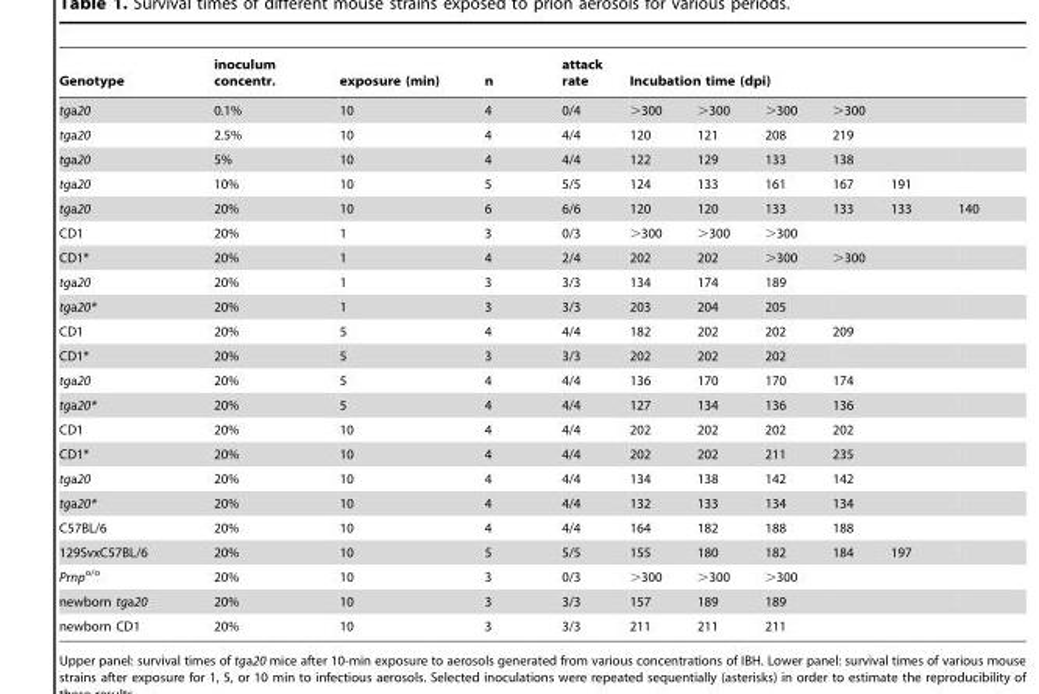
<table><thead><tr><td rowspan="2">Genotype tga20</td><td rowspan="2">inoculum concentr. 0.1%</td><td rowspan="2">exposure (min) 10</td><td rowspan="2">n 4</td><td rowspan="2">attack rate 0/4</td><td colspan="6">Incubation time (dpi)</td></tr><tr><td>&gt;300</td><td>&gt;300</td><td>&gt;300</td><td>&gt;300</td><td></td><td></td></tr></thead><tbody><tr><td>tga20</td><td>2.5%</td><td>10</td><td>4</td><td>4/4</td><td>120</td><td>121</td><td>208</td><td>219</td><td></td><td></td></tr><tr><td>tga20</td><td>5%</td><td>10</td><td>4</td><td>4/4</td><td>122</td><td>129</td><td>133</td><td>138</td><td></td><td></td></tr><tr><td>tga20</td><td>10%</td><td>10</td><td>5</td><td>5/5</td><td>124</td><td>133</td><td>161</td><td>167</td><td>191</td><td></td></tr><tr><td>tga20</td><td>20%</td><td>10</td><td>6</td><td>6/6</td><td>120</td><td>120</td><td>133</td><td>133</td><td>133</td><td>140</td></tr><tr><td>CD1</td><td>20%</td><td>1</td><td>3</td><td>0/3</td><td>&gt;300</td><td>&gt;300</td><td>&gt;300</td><td></td><td></td><td></td></tr><tr><td>CD1*</td><td>20%</td><td>1</td><td>4</td><td>2/4</td><td>202</td><td>202</td><td>&gt;300</td><td>&gt;300</td><td></td><td></td></tr><tr><td>tga20</td><td>20%</td><td>1</td><td>3</td><td>3/3</td><td>134</td><td>174</td><td>189</td><td></td><td></td><td></td></tr><tr><td>tga20*</td><td>20%</td><td>1</td><td>3</td><td>3/3</td><td>203</td><td>204</td><td>205</td><td></td><td></td><td></td></tr><tr><td>CD1</td><td>20%</td><td>5</td><td>4</td><td>4/4</td><td>182</td><td>202</td><td>202</td><td>209</td><td></td><td></td></tr><tr><td>CD1*</td><td>20%</td><td>5</td><td>3</td><td>3/3</td><td>202</td><td>202</td><td>202</td><td></td><td></td><td></td></tr><tr><td>tga20</td><td>20%</td><td>5</td><td>4</td><td>4/4</td><td>136</td><td>170</td><td>170</td><td>174</td><td></td><td></td></tr><tr><td>tga20*</td><td>20%</td><td>5</td><td>4</td><td>4/4</td><td>127</td><td>134</td><td>136</td><td>136</td><td></td><td></td></tr><tr><td>CD1</td><td>20%</td><td>10</td><td>4</td><td>4/4</td><td>202</td><td>202</td><td>202</td><td>202</td><td></td><td></td></tr><tr><td>CD1*</td><td>20%</td><td>10</td><td>4</td><td>4/4</td><td>202</td><td>202</td><td>211</td><td>235</td><td></td><td></td></tr><tr><td>tga20</td><td>20%</td><td>10</td><td>4</td><td>4/4</td><td>134</td><td>138</td><td>142</td><td>142</td><td></td><td></td></tr><tr><td>tga20*</td><td>20%</td><td>10</td><td>4</td><td>4/4</td><td>132</td><td>133</td><td>134</td><td>134</td><td></td><td></td></tr><tr><td>C57BL/6</td><td>20%</td><td>10</td><td>4</td><td>4/4</td><td>164</td><td>182</td><td>188</td><td>188</td><td></td><td></td></tr><tr><td>129SvxC57BL/6</td><td>20%</td><td>10</td><td>5</td><td>5/5</td><td>155</td><td>180</td><td>182</td><td>184</td><td>197</td><td></td></tr><tr><td>Prnpo/o</td><td>20%</td><td>10</td><td>3</td><td>0/3</td><td>&gt;300</td><td>&gt;300</td><td>&gt;300</td><td></td><td></td><td></td></tr><tr><td>newborn tga20</td><td>20%</td><td>10</td><td>3</td><td>3/3</td><td>157</td><td>189</td><td>189</td><td></td><td></td><td></td></tr><tr><td>newborn CD1</td><td>20%</td><td>10</td><td>3</td><td>3/3</td><td>211</td><td>211</td><td>211</td><td></td><td></td><td></td></tr></tbody></table>